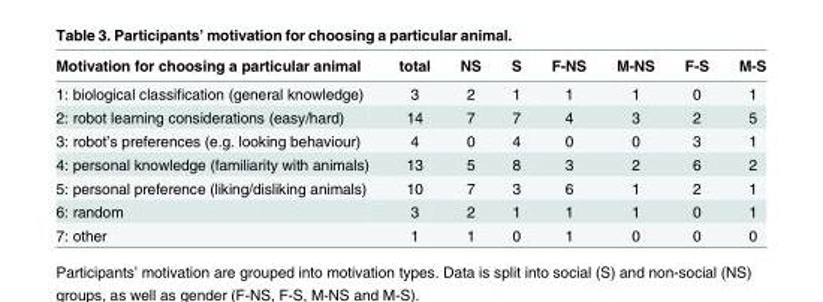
<table><thead><tr><td>Motivation for choosing a particular animal</td><td>total</td><td>NS</td><td>S</td><td>F-NS</td><td>M-NS</td><td>F-S</td><td>M-S</td></tr></thead><tbody><tr><td>1: biological classification (general knowledge)</td><td>3</td><td>2</td><td>1</td><td>1</td><td>1</td><td>0</td><td>1</td></tr><tr><td>2: robot learning considerations (easy/hard)</td><td>14</td><td>7</td><td>7</td><td>4</td><td>3</td><td>2</td><td>5</td></tr><tr><td>3: robot’s preferences (e.g. looking behaviour)</td><td>4</td><td>0</td><td>4</td><td>0</td><td>0</td><td>3</td><td>1</td></tr><tr><td>4: personal knowledge (familiarity with animals)</td><td>13</td><td>5</td><td>8</td><td>3</td><td>2</td><td>6</td><td>2</td></tr><tr><td>5: personal preference (liking/disliking animals)</td><td>10</td><td>7</td><td>3</td><td>6</td><td>1</td><td>2</td><td>1</td></tr><tr><td>6: random</td><td>3</td><td>2</td><td>1</td><td>1</td><td>1</td><td>0</td><td>1</td></tr><tr><td>7: other</td><td>1</td><td>1</td><td>0</td><td>1</td><td>0</td><td>0</td><td>0</td></tr></tbody></table>